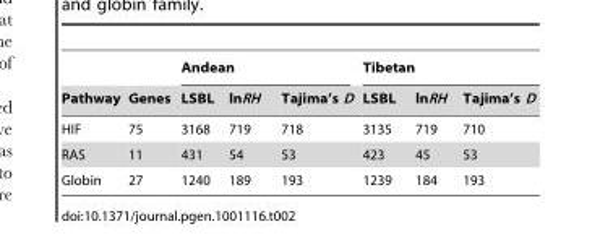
<table><thead><tr><td rowspan="2">Pathway</td><td rowspan="2">Genes</td><td colspan="3">Andean</td><td colspan="3">Tibetan</td></tr><tr><td>LSBL</td><td>lnRH</td><td>Tajima’s D</td><td>LSBL</td><td>lnRH</td><td>Tajima’s D</td></tr></thead><tbody><tr><td>HIF</td><td>75</td><td>3168</td><td>719</td><td>718</td><td>3135</td><td>719</td><td>710</td></tr><tr><td>RAS</td><td>11</td><td>431</td><td>54</td><td>53</td><td>423</td><td>45</td><td>53</td></tr><tr><td>Globin</td><td>27</td><td>1240</td><td>189</td><td>193</td><td>1239</td><td>184</td><td>193</td></tr></tbody></table>